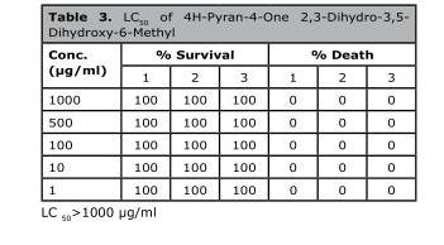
<table><thead><tr><td rowspan="2">Conc. (µg/ml)</td><td colspan="3">% Survival</td><td colspan="3">% Death</td></tr><tr><td>1</td><td>2</td><td>3</td><td>1</td><td>2</td><td>3</td></tr></thead><tbody><tr><td>1000</td><td>100</td><td>100</td><td>100</td><td>0</td><td>0</td><td>0</td></tr><tr><td>500</td><td>100</td><td>100</td><td>100</td><td>0</td><td>0</td><td>0</td></tr><tr><td>100</td><td>100</td><td>100</td><td>100</td><td>0</td><td>0</td><td>0</td></tr><tr><td>10</td><td>100</td><td>100</td><td>100</td><td>0</td><td>0</td><td>0</td></tr><tr><td>1</td><td>100</td><td>100</td><td>100</td><td>0</td><td>0</td><td>0</td></tr></tbody></table>